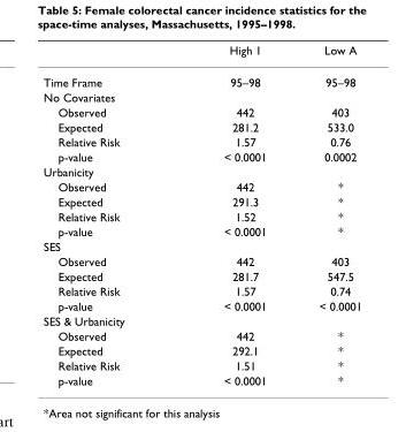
<table><thead><tr><td></td><td>High 1</td><td>Low A</td></tr></thead><tbody><tr><td>Time Frame</td><td>95–98</td><td>95–98</td></tr><tr><td colspan="3">No Covariates</td></tr><tr><td>Observed</td><td>442</td><td>403</td></tr><tr><td>Expected</td><td>281.2</td><td>533.0</td></tr><tr><td>Relative Risk</td><td>1.57</td><td>0.76</td></tr><tr><td>p-value</td><td>&lt; 0.0001</td><td>0.0002</td></tr><tr><td colspan="3">Urbanicity</td></tr><tr><td>Observed</td><td>442</td><td>*</td></tr><tr><td>Expected</td><td>291.3</td><td>*</td></tr><tr><td>Relative Risk</td><td>1.52</td><td>*</td></tr><tr><td>p-value</td><td>&lt; 0.0001</td><td>*</td></tr><tr><td colspan="3">SES</td></tr><tr><td>Observed</td><td>442</td><td>403</td></tr><tr><td>Expected</td><td>281.7</td><td>547.5</td></tr><tr><td>Relative Risk</td><td>1.57</td><td>0.74</td></tr><tr><td>p-value</td><td>&lt; 0.0001</td><td>&lt; 0.0001</td></tr><tr><td colspan="3">SES &amp; Urbanicity</td></tr><tr><td>Observed</td><td>442</td><td>*</td></tr><tr><td>Expected</td><td>292.1</td><td>*</td></tr><tr><td>Relative Risk</td><td>1.51</td><td>*</td></tr><tr><td>p-value</td><td>&lt; 0.0001</td><td>*</td></tr></tbody></table>